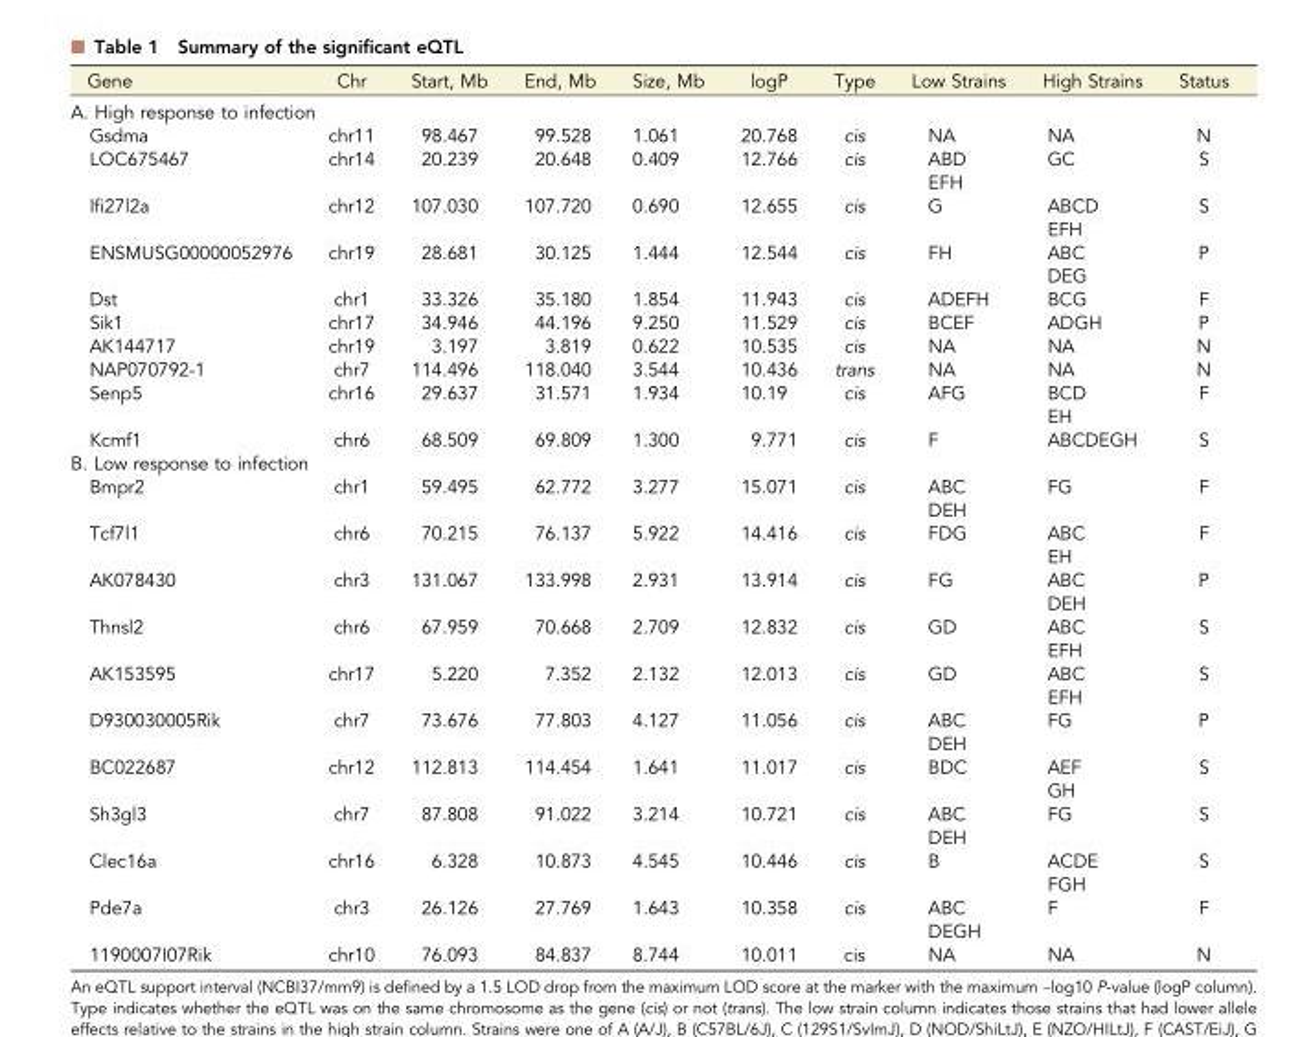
<table><thead><tr><td>Gene</td><td>Chr</td><td>Start, Mb</td><td>End, Mb</td><td>Size, Mb</td><td>logP</td><td>Type</td><td>Low Strains</td><td>High Strains</td><td>Status</td></tr></thead><tbody><tr><td colspan="10">A. High response to infection</td></tr><tr><td>Gsdma</td><td>chr11</td><td>98.467</td><td>99.528</td><td>1.061</td><td>20.768</td><td>cis</td><td>NA</td><td>NA</td><td>N</td></tr><tr><td rowspan="2">LOC675467</td><td>chr14</td><td>20.239</td><td>20.648</td><td>0.409</td><td>12.766</td><td>cis</td><td>ABD</td><td>GC</td><td>S</td></tr><tr><td></td><td></td><td></td><td></td><td></td><td></td><td>EFH</td><td></td><td></td></tr><tr><td rowspan="2">Ifi27l2a</td><td>chr12</td><td>107.030</td><td>107.720</td><td>0.690</td><td>12.655</td><td>cis</td><td>G</td><td>ABCD</td><td>S</td></tr><tr><td></td><td></td><td></td><td></td><td></td><td></td><td></td><td>EFH</td><td></td></tr><tr><td rowspan="2">ENSMUSG00000052976</td><td>chr19</td><td>28.681</td><td>30.125</td><td>1.444</td><td>12.544</td><td>cis</td><td>FH</td><td>ABC</td><td>P</td></tr><tr><td></td><td></td><td></td><td></td><td></td><td></td><td></td><td>DEG</td><td></td></tr><tr><td>Dst</td><td>chr1</td><td>33.326</td><td>35.180</td><td>1.854</td><td>11.943</td><td>cis</td><td>ADEFH</td><td>BCG</td><td>F</td></tr><tr><td>Sik1</td><td>chr17</td><td>34.946</td><td>44.196</td><td>9.250</td><td>11.529</td><td>cis</td><td>BCEF</td><td>ADGH</td><td>P</td></tr><tr><td>AK144717</td><td>chr19</td><td>3.197</td><td>3.819</td><td>0.622</td><td>10.535</td><td>cis</td><td>NA</td><td>NA</td><td>N</td></tr><tr><td>NAP070792-1</td><td>chr7</td><td>114.496</td><td>118.040</td><td>3.544</td><td>10.436</td><td>trans</td><td>NA</td><td>NA</td><td>N</td></tr><tr><td rowspan="2">Senp5</td><td>chr16</td><td>29.637</td><td>31.571</td><td>1.934</td><td>10.19</td><td>cis</td><td>AFG</td><td>BCD</td><td>F</td></tr><tr><td></td><td></td><td></td><td></td><td></td><td></td><td></td><td>EH</td><td></td></tr><tr><td>Kcmf1</td><td>chr6</td><td>68.509</td><td>69.809</td><td>1.300</td><td>9.771</td><td>cis</td><td>F</td><td>ABCDEGH</td><td>S</td></tr><tr><td colspan="10">B. Low response to infection</td></tr><tr><td rowspan="2">Bmpr2</td><td>chr1</td><td>59.495</td><td>62.772</td><td>3.277</td><td>15.071</td><td>cis</td><td>ABC</td><td>FG</td><td>F</td></tr><tr><td></td><td></td><td></td><td></td><td></td><td></td><td>DEH</td><td></td><td></td></tr><tr><td rowspan="2">Tcf7l1</td><td>chr6</td><td>70.215</td><td>76.137</td><td>5.922</td><td>14.416</td><td>cis</td><td>FDG</td><td>ABC</td><td>F</td></tr><tr><td></td><td></td><td></td><td></td><td></td><td></td><td></td><td>EH</td><td></td></tr><tr><td rowspan="2">AK078430</td><td>chr3</td><td>131.067</td><td>133.998</td><td>2.931</td><td>13.914</td><td>cis</td><td>FG</td><td>ABC</td><td>P</td></tr><tr><td></td><td></td><td></td><td></td><td></td><td></td><td></td><td>DEH</td><td></td></tr><tr><td rowspan="2">Thnsl2</td><td>chr6</td><td>67.959</td><td>70.668</td><td>2.709</td><td>12.832</td><td>cis</td><td>GD</td><td>ABC</td><td>S</td></tr><tr><td></td><td></td><td></td><td></td><td></td><td></td><td></td><td>EFH</td><td></td></tr><tr><td rowspan="2">AK153595</td><td>chr17</td><td>5.220</td><td>7.352</td><td>2.132</td><td>12.013</td><td>cis</td><td>GD</td><td>ABC</td><td>S</td></tr><tr><td></td><td></td><td></td><td></td><td></td><td></td><td></td><td>EFH</td><td></td></tr><tr><td rowspan="2">D930030005Rik</td><td>chr7</td><td>73.676</td><td>77.803</td><td>4.127</td><td>11.056</td><td>cis</td><td>ABC</td><td>FG</td><td>P</td></tr><tr><td></td><td></td><td></td><td></td><td></td><td></td><td>DEH</td><td></td><td></td></tr><tr><td rowspan="2">BC022687</td><td>chr12</td><td>112.813</td><td>114.454</td><td>1.641</td><td>11.017</td><td>cis</td><td>BDC</td><td>AEF</td><td>S</td></tr><tr><td></td><td></td><td></td><td></td><td></td><td></td><td></td><td>GH</td><td></td></tr><tr><td rowspan="2">Sh3gl3</td><td>chr7</td><td>87.808</td><td>91.022</td><td>3.214</td><td>10.721</td><td>cis</td><td>ABC</td><td>FG</td><td>S</td></tr><tr><td></td><td></td><td></td><td></td><td></td><td></td><td>DEH</td><td></td><td></td></tr><tr><td rowspan="2">Clec16a</td><td>chr16</td><td>6.328</td><td>10.873</td><td>4.545</td><td>10.446</td><td>cis</td><td>B</td><td>ACDE</td><td>S</td></tr><tr><td></td><td></td><td></td><td></td><td></td><td></td><td></td><td>FGH</td><td></td></tr><tr><td rowspan="2">Pde7a</td><td>chr3</td><td>26.126</td><td>27.769</td><td>1.643</td><td>10.358</td><td>cis</td><td>ABC</td><td>F</td><td>F</td></tr><tr><td></td><td></td><td></td><td></td><td></td><td></td><td>DEGH</td><td></td><td></td></tr><tr><td>1190007I07Rik</td><td>chr10</td><td>76.093</td><td>84.837</td><td>8.744</td><td>10.011</td><td>cis</td><td>NA</td><td>NA</td><td>N</td></tr></tbody></table>